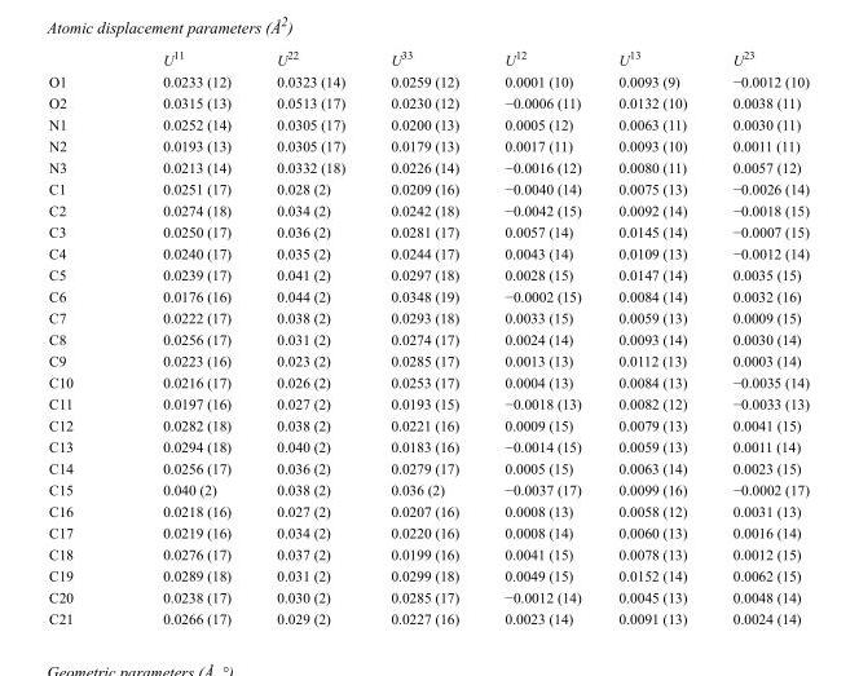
<table><thead><tr><td></td><td>U<sup>11</sup></td><td>U<sup>22</sup></td><td>U<sup>33</sup></td><td>U<sup>12</sup></td><td>U<sup>13</sup></td><td>U<sup>23</sup></td></tr></thead><tbody><tr><td>O1</td><td>0.0233 (12)</td><td>0.0323 (14)</td><td>0.0259 (12)</td><td>0.0001 (10)</td><td>0.0093 (9)</td><td>−0.0012 (10)</td></tr><tr><td>O2</td><td>0.0315 (13)</td><td>0.0513 (17)</td><td>0.0230 (12)</td><td>−0.0006 (11)</td><td>0.0132 (10)</td><td>0.0038 (11)</td></tr><tr><td>N1</td><td>0.0252 (14)</td><td>0.0305 (17)</td><td>0.0200 (13)</td><td>0.0005 (12)</td><td>0.0063 (11)</td><td>0.0030 (11)</td></tr><tr><td>N2</td><td>0.0193 (13)</td><td>0.0305 (17)</td><td>0.0179 (13)</td><td>0.0017 (11)</td><td>0.0093 (10)</td><td>0.0011 (11)</td></tr><tr><td>N3</td><td>0.0213 (14)</td><td>0.0332 (18)</td><td>0.0226 (14)</td><td>−0.0016 (12)</td><td>0.0080 (11)</td><td>0.0057 (12)</td></tr><tr><td>C1</td><td>0.0251 (17)</td><td>0.028 (2)</td><td>0.0209 (16)</td><td>−0.0040 (14)</td><td>0.0075 (13)</td><td>−0.0026 (14)</td></tr><tr><td>C2</td><td>0.0274 (18)</td><td>0.034 (2)</td><td>0.0242 (18)</td><td>−0.0042 (15)</td><td>0.0092 (14)</td><td>−0.0018 (15)</td></tr><tr><td>C3</td><td>0.0250 (17)</td><td>0.036 (2)</td><td>0.0281 (17)</td><td>0.0057 (14)</td><td>0.0145 (14)</td><td>−0.0007 (15)</td></tr><tr><td>C4</td><td>0.0240 (17)</td><td>0.035 (2)</td><td>0.0244 (17)</td><td>0.0043 (14)</td><td>0.0109 (13)</td><td>−0.0012 (14)</td></tr><tr><td>C5</td><td>0.0239 (17)</td><td>0.041 (2)</td><td>0.0297 (18)</td><td>0.0028 (15)</td><td>0.0147 (14)</td><td>0.0035 (15)</td></tr><tr><td>C6</td><td>0.0176 (16)</td><td>0.044 (2)</td><td>0.0348 (19)</td><td>−0.0002 (15)</td><td>0.0084 (14)</td><td>0.0032 (16)</td></tr><tr><td>C7</td><td>0.0222 (17)</td><td>0.038 (2)</td><td>0.0293 (18)</td><td>0.0033 (15)</td><td>0.0059 (13)</td><td>0.0009 (15)</td></tr><tr><td>C8</td><td>0.0256 (17)</td><td>0.031 (2)</td><td>0.0274 (17)</td><td>0.0024 (14)</td><td>0.0093 (14)</td><td>0.0030 (14)</td></tr><tr><td>C9</td><td>0.0223 (16)</td><td>0.023 (2)</td><td>0.0285 (17)</td><td>0.0013 (13)</td><td>0.0112 (13)</td><td>0.0003 (14)</td></tr><tr><td>C10</td><td>0.0216 (17)</td><td>0.026 (2)</td><td>0.0253 (17)</td><td>0.0004 (13)</td><td>0.0084 (13)</td><td>−0.0035 (14)</td></tr><tr><td>C11</td><td>0.0197 (16)</td><td>0.027 (2)</td><td>0.0193 (15)</td><td>−0.0018 (13)</td><td>0.0082 (12)</td><td>−0.0033 (13)</td></tr><tr><td>C12</td><td>0.0282 (18)</td><td>0.038 (2)</td><td>0.0221 (16)</td><td>0.0009 (15)</td><td>0.0079 (13)</td><td>0.0041 (15)</td></tr><tr><td>C13</td><td>0.0294 (18)</td><td>0.040 (2)</td><td>0.0183 (16)</td><td>−0.0014 (15)</td><td>0.0059 (13)</td><td>0.0011 (14)</td></tr><tr><td>C14</td><td>0.0256 (17)</td><td>0.036 (2)</td><td>0.0279 (17)</td><td>0.0005 (15)</td><td>0.0063 (14)</td><td>0.0023 (15)</td></tr><tr><td>C15</td><td>0.040 (2)</td><td>0.038 (2)</td><td>0.036 (2)</td><td>−0.0037 (17)</td><td>0.0099 (16)</td><td>−0.0002 (17)</td></tr><tr><td>C16</td><td>0.0218 (16)</td><td>0.027 (2)</td><td>0.0207 (16)</td><td>0.0008 (13)</td><td>0.0058 (12)</td><td>0.0031 (13)</td></tr><tr><td>C17</td><td>0.0219 (16)</td><td>0.034 (2)</td><td>0.0220 (16)</td><td>0.0008 (14)</td><td>0.0060 (13)</td><td>0.0016 (14)</td></tr><tr><td>C18</td><td>0.0276 (17)</td><td>0.037 (2)</td><td>0.0199 (16)</td><td>0.0041 (15)</td><td>0.0078 (13)</td><td>0.0012 (15)</td></tr><tr><td>C19</td><td>0.0289 (18)</td><td>0.031 (2)</td><td>0.0299 (18)</td><td>0.0049 (15)</td><td>0.0152 (14)</td><td>0.0062 (15)</td></tr><tr><td>C20</td><td>0.0238 (17)</td><td>0.030 (2)</td><td>0.0285 (17)</td><td>−0.0012 (14)</td><td>0.0045 (13)</td><td>0.0048 (14)</td></tr><tr><td>C21</td><td>0.0266 (17)</td><td>0.029 (2)</td><td>0.0227 (16)</td><td>0.0023 (14)</td><td>0.0091 (13)</td><td>0.0024 (14)</td></tr></tbody></table>